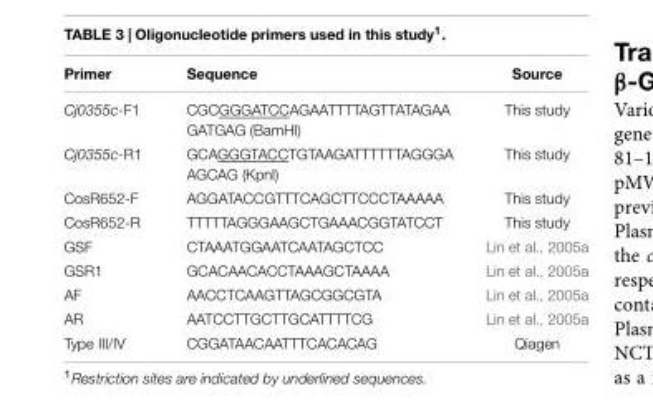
<table><thead><tr><td>Primer</td><td>Sequence</td><td>Source</td></tr></thead><tbody><tr><td>Cj0355c-F1</td><td>CGCGGGATCCAGAATTTTAGTTATAGAA GATGAG (BamHI)</td><td>This study</td></tr><tr><td>Cj0355c-R1</td><td>GCAGGGTACCTGTAAGATTTTTTAGGGA AGCAG (KpnI)</td><td>This study</td></tr><tr><td>CosR652-F</td><td>AGGATACCGTTTCAGCTTCCCTAAAAA</td><td>This study</td></tr><tr><td>CosR652-R</td><td>TTTTTAGGGAAGCTGAAACGGTATCCT</td><td>This study</td></tr><tr><td>GSF</td><td>CTAAATGGAATCAATAGCTCC</td><td>Lin et al., 2005a</td></tr><tr><td>GSR1</td><td>GCACAACACCTAAAGCTAAAA</td><td>Lin et al., 2005a</td></tr><tr><td>AF</td><td>AACCTCAAGTTAGCGGCGTA</td><td>Lin et al., 2005a</td></tr><tr><td>AR</td><td>AATCCTTGCTTGCATTTTCG</td><td>Lin et al., 2005a</td></tr><tr><td>Type III/IV</td><td>CGGATAACAATTTCACACAG</td><td>Qiagen</td></tr></tbody></table>